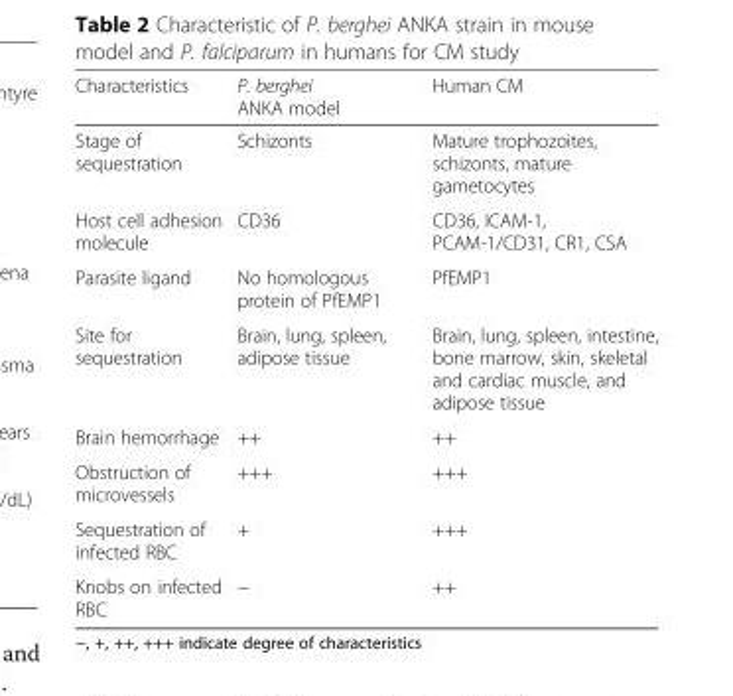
<table><thead><tr><td>Characteristics</td><td>P. berghei ANKA model</td><td>Human CM</td></tr></thead><tbody><tr><td>Stage of sequestration</td><td>Schizonts</td><td>Mature trophozoites, schizonts, mature gametocytes</td></tr><tr><td>Host cell adhesion molecule</td><td>CD36</td><td>CD36, ICAM-1, PCAM-1/CD31, CR1, CSA</td></tr><tr><td>Parasite ligand</td><td>No homologous protein of PfEMP1</td><td>PfEMP1</td></tr><tr><td>Site for sequestration</td><td>Brain, lung, spleen, adipose tissue</td><td>Brain, lung, spleen, intestine, bone marrow, skin, skeletal and cardiac muscle, and adipose tissue</td></tr><tr><td>Brain hemorrhage</td><td>++</td><td>++</td></tr><tr><td>Obstruction of microvessels</td><td>+++</td><td>+++</td></tr><tr><td>Sequestration of infected RBC</td><td>+</td><td>+++</td></tr><tr><td>Knobs on infected RBC</td><td>−</td><td>++</td></tr></tbody></table>